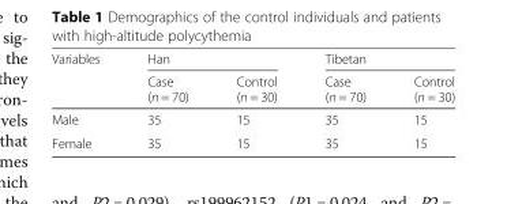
<table><thead><tr><td rowspan="2">Variables</td><td colspan="2">Han</td><td colspan="2">Tibetan</td></tr><tr><td>Case (n = 70)</td><td>Control (n = 30)</td><td>Case (n = 70)</td><td>Control (n = 30)</td></tr></thead><tbody><tr><td>Male</td><td>35</td><td>15</td><td>35</td><td>15</td></tr><tr><td>Female</td><td>35</td><td>15</td><td>35</td><td>15</td></tr></tbody></table>